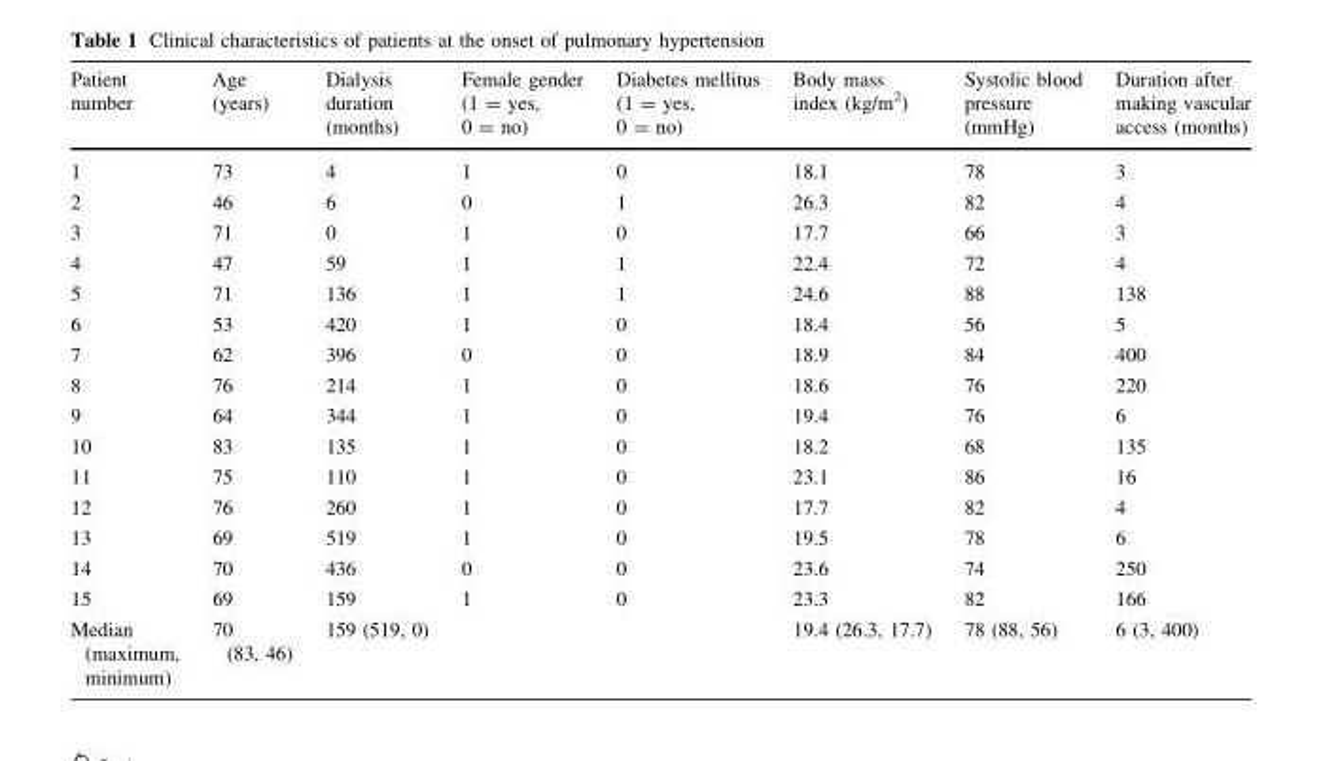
<table><thead><tr><td>Patient number</td><td>Age (years)</td><td>Dialysis duration (months)</td><td>Female gender (1 = yes, 0 = no)</td><td>Diabetes mellitus (1 = yes, 0 = no)</td><td>Body mass index (kg/m<sup>2</sup>)</td><td>Systolic blood pressure (mmHg)</td><td>Duration after making vascular access (months)</td></tr></thead><tbody><tr><td>1</td><td>73</td><td>4</td><td>1</td><td>0</td><td>18.1</td><td>78</td><td>3</td></tr><tr><td>2</td><td>46</td><td>6</td><td>0</td><td>1</td><td>26.3</td><td>82</td><td>4</td></tr><tr><td>3</td><td>71</td><td>0</td><td>1</td><td>0</td><td>17.7</td><td>66</td><td>3</td></tr><tr><td>4</td><td>47</td><td>59</td><td>1</td><td>1</td><td>22.4</td><td>72</td><td>4</td></tr><tr><td>5</td><td>71</td><td>136</td><td>1</td><td>1</td><td>24.6</td><td>88</td><td>138</td></tr><tr><td>6</td><td>53</td><td>420</td><td>1</td><td>0</td><td>18.4</td><td>56</td><td>5</td></tr><tr><td>7</td><td>62</td><td>396</td><td>0</td><td>0</td><td>18.9</td><td>84</td><td>400</td></tr><tr><td>8</td><td>76</td><td>214</td><td>1</td><td>0</td><td>18.6</td><td>76</td><td>220</td></tr><tr><td>9</td><td>64</td><td>344</td><td>1</td><td>0</td><td>19.4</td><td>76</td><td>6</td></tr><tr><td>10</td><td>83</td><td>135</td><td>1</td><td>0</td><td>18.2</td><td>68</td><td>135</td></tr><tr><td>11</td><td>75</td><td>110</td><td>1</td><td>0</td><td>23.1</td><td>86</td><td>16</td></tr><tr><td>12</td><td>76</td><td>260</td><td>1</td><td>0</td><td>17.7</td><td>82</td><td>4</td></tr><tr><td>13</td><td>69</td><td>519</td><td>1</td><td>0</td><td>19.5</td><td>78</td><td>6</td></tr><tr><td>14</td><td>70</td><td>436</td><td>0</td><td>0</td><td>23.6</td><td>74</td><td>250</td></tr><tr><td>15</td><td>69</td><td>159</td><td>1</td><td>0</td><td>23.3</td><td>82</td><td>166</td></tr><tr><td>Median (maximum, minimum)</td><td>70 (83, 46)</td><td>159 (519, 0)</td><td></td><td></td><td>19.4 (26.3, 17.7)</td><td>78 (88, 56)</td><td>6 (3, 400)</td></tr></tbody></table>